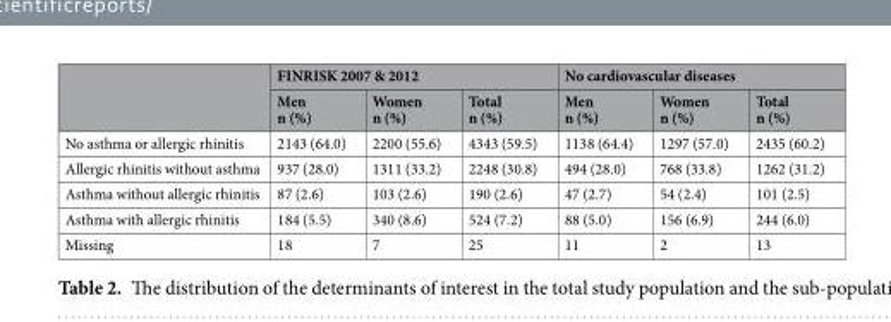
<table><thead><tr><td rowspan="2"></td><td colspan="3">FINRISK 2007 &amp; 2012</td><td colspan="3">No cardiovascular diseases</td></tr><tr><td>Men n (%)</td><td>Women n (%)</td><td>Total n (%)</td><td>Men n (%)</td><td>Women n (%)</td><td>Total n (%)</td></tr></thead><tbody><tr><td>No asthma or allergic rhinitis</td><td>2143 (64.0)</td><td>2200 (55.6)</td><td>4343 (59.5)</td><td>1138 (64.4)</td><td>1297 (57.0)</td><td>2435 (60.2)</td></tr><tr><td>Allergic rhinitis without asthma</td><td>937 (28.0)</td><td>1311 (33.2)</td><td>2248 (30.8)</td><td>494 (28.0)</td><td>768 (33.8)</td><td>1262 (31.2)</td></tr><tr><td>Asthma without allergic rhinitis</td><td>87 (2.6)</td><td>103 (2.6)</td><td>190 (2.6)</td><td>47 (2.7)</td><td>54 (2.4)</td><td>101 (2.5)</td></tr><tr><td>Asthma with allergic rhinitis</td><td>184 (5.5)</td><td>340 (8.6)</td><td>524 (7.2)</td><td>88 (5.0)</td><td>156 (6.9)</td><td>244 (6.0)</td></tr><tr><td>Missing</td><td>18</td><td>7</td><td>25</td><td>11</td><td>2</td><td>13</td></tr></tbody></table>